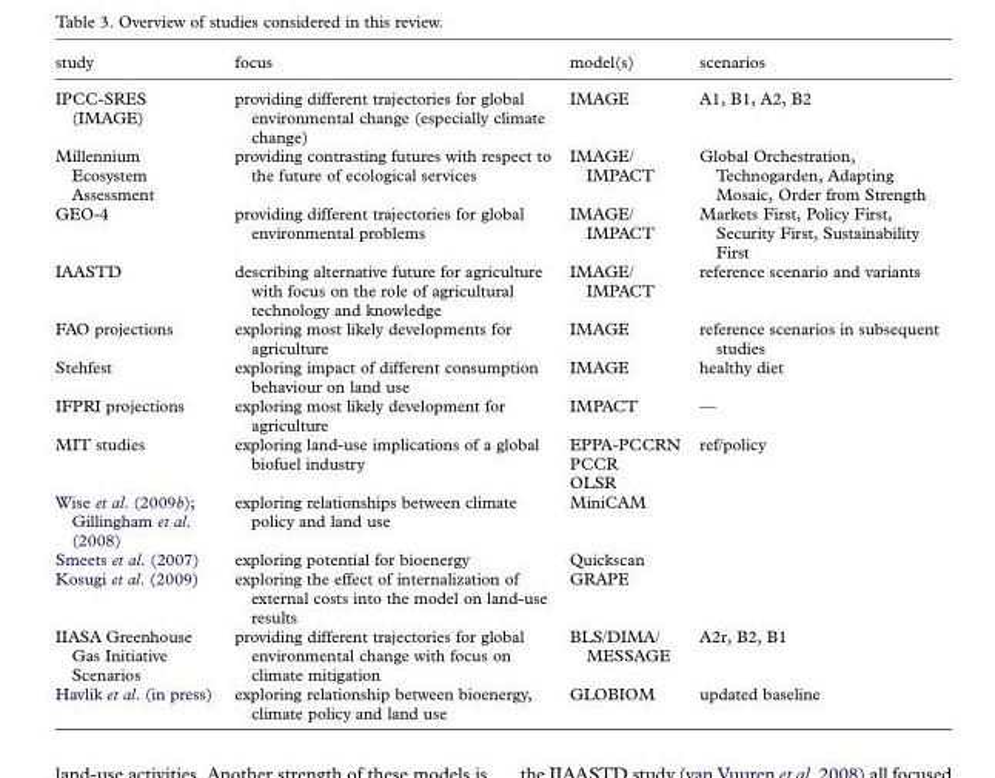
<table><thead><tr><td>study</td><td>focus</td><td>model(s)</td><td>scenarios</td></tr></thead><tbody><tr><td>IPCC-SRES (IMAGE)</td><td>providing different trajectories for global environmental change (especially climate change)</td><td>IMAGE</td><td>A1, B1, A2, B2</td></tr><tr><td>Millennium Ecosystem Assessment</td><td>providing contrasting futures with respect to the future of ecological services</td><td>IMAGE/ IMPACT</td><td>Global Orchestration, Technogarden, Adapting Mosaic, Order from Strength</td></tr><tr><td>GEO-4</td><td>providing different trajectories for global environmental problems</td><td>IMAGE/ IMPACT</td><td>Markets First, Policy First, Security First, Sustainability First</td></tr><tr><td>IAASTD</td><td>describing alternative future for agriculture with focus on the role of agricultural technology and knowledge</td><td>IMAGE/ IMPACT</td><td>reference scenario and variants</td></tr><tr><td>FAO projections</td><td>exploring most likely developments for agriculture</td><td>IMAGE</td><td>reference scenarios in subsequent studies</td></tr><tr><td>Stehfest</td><td>exploring impact of different consumption behaviour on land use</td><td>IMAGE</td><td>healthy diet</td></tr><tr><td>IFPRI projections</td><td>exploring most likely development for agriculture</td><td>IMPACT</td><td>—</td></tr><tr><td rowspan="3">MIT studies</td><td rowspan="3">exploring land-use implications of a global biofuel industry</td><td>EPPA-PCCRN</td><td rowspan="3">ref/policy</td></tr><tr><td>PCCR</td></tr><tr><td>OLSR</td></tr><tr><td>Wise et al. (2009b); Gillingham et al. (2008)</td><td>exploring relationships between climate policy and land use</td><td>MiniCAM</td><td></td></tr><tr><td>Smeets et al. (2007)</td><td>exploring potential for bioenergy</td><td>Quickscan</td><td></td></tr><tr><td>Kosugi et al. (2009)</td><td>exploring the effect of internalization of external costs into the model on land-use results</td><td>GRAPE</td><td></td></tr><tr><td>IIASA Greenhouse Gas Initiative Scenarios</td><td>providing different trajectories for global environmental change with focus on climate mitigation</td><td>BLS/DIMA/ MESSAGE</td><td>A2r, B2, B1</td></tr><tr><td>Havlı´k et al. (in press)</td><td>exploring relationship between bioenergy, climate policy and land use</td><td>GLOBIOM</td><td>updated baseline</td></tr></tbody></table>